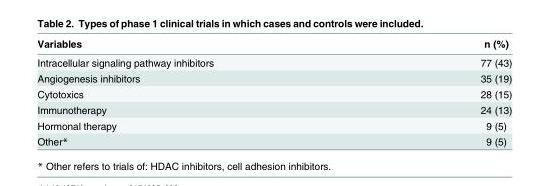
<table><thead><tr><td>Variables</td><td>n (%)</td></tr></thead><tbody><tr><td>Intracellular signaling pathway inhibitors</td><td>77 (43)</td></tr><tr><td>Angiogenesis inhibitors</td><td>35 (19)</td></tr><tr><td>Cytotoxics</td><td>28 (15)</td></tr><tr><td>Immunotherapy</td><td>24 (13)</td></tr><tr><td>Hormonal therapy</td><td>9 (5)</td></tr><tr><td>Other*</td><td>9 (5)</td></tr></tbody></table>